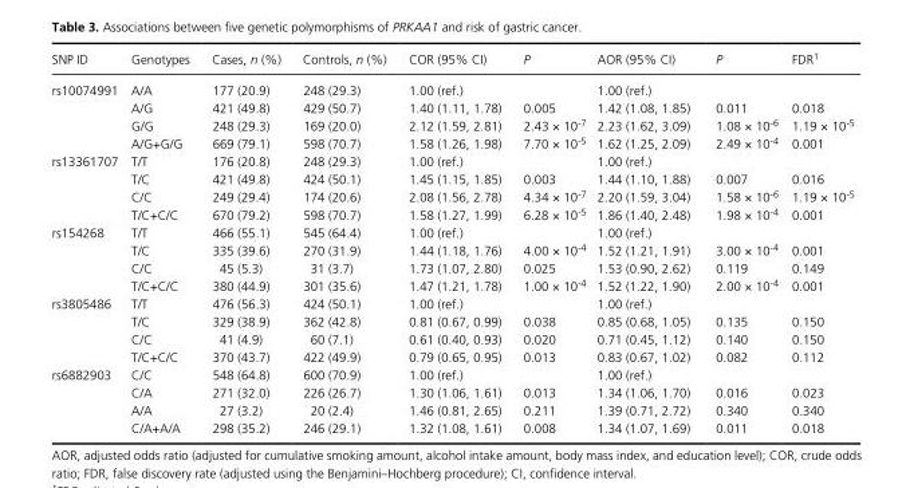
<table><thead><tr><td>SNP ID</td><td>Genotypes</td><td>Cases, n (%)</td><td>Controls, n (%)</td><td>COR (95% CI)</td><td>P</td><td>AOR (95% CI)</td><td>P</td><td>FDR1</td></tr></thead><tbody><tr><td rowspan="4">rs10074991</td><td>A/A</td><td>177 (20.9)</td><td>248 (29.3)</td><td>1.00 (ref.)</td><td></td><td>1.00 (ref.)</td><td></td><td></td></tr><tr><td>A/G</td><td>421 (49.8)</td><td>429 (50.7)</td><td>1.40 (1.11, 1.78)</td><td>0.005</td><td>1.42 (1.08, 1.85)</td><td>0.011</td><td>0.018</td></tr><tr><td>G/G</td><td>248 (29.3)</td><td>169 (20.0)</td><td>2.12 (1.59, 2.81)</td><td>2.43 × 10<sup>-7</sup></td><td>2.23 (1.62, 3.09)</td><td>1.08 × 10<sup>-6</sup></td><td>1.19 × 10<sup>-5</sup></td></tr><tr><td>A/G+G/G</td><td>669 (79.1)</td><td>598 (70.7)</td><td>1.58 (1.26, 1.98)</td><td>7.70 × 10<sup>-5</sup></td><td>1.62 (1.25, 2.09)</td><td>2.49 × 10<sup>-4</sup></td><td>0.001</td></tr><tr><td rowspan="4">rs13361707</td><td>T/T</td><td>176 (20.8)</td><td>248 (29.3)</td><td>1.00 (ref.)</td><td></td><td>1.00 (ref.)</td><td></td><td></td></tr><tr><td>T/C</td><td>421 (49.8)</td><td>424 (50.1)</td><td>1.45 (1.15, 1.85)</td><td>0.003</td><td>1.44 (1.10, 1.88)</td><td>0.007</td><td>0.016</td></tr><tr><td>C/C</td><td>249 (29.4)</td><td>174 (20.6)</td><td>2.08 (1.56, 2.78)</td><td>4.34 × 10<sup>-7</sup></td><td>2.20 (1.59, 3.04)</td><td>1.58 × 10<sup>-6</sup></td><td>1.19 × 10<sup>-5</sup></td></tr><tr><td>T/C+C/C</td><td>670 (79.2)</td><td>598 (70.7)</td><td>1.58 (1.27, 1.99)</td><td>6.28 × 10<sup>-5</sup></td><td>1.86 (1.40, 2.48)</td><td>1.98 × 10<sup>-4</sup></td><td>0.001</td></tr><tr><td rowspan="4">rs154268</td><td>T/T</td><td>466 (55.1)</td><td>545 (64.4)</td><td>1.00 (ref.)</td><td></td><td>1.00 (ref.)</td><td></td><td></td></tr><tr><td>T/C</td><td>335 (39.6)</td><td>270 (31.9)</td><td>1.44 (1.18, 1.76)</td><td>4.00 × 10<sup>-4</sup></td><td>1.52 (1.21, 1.91)</td><td>3.00 × 10<sup>-4</sup></td><td>0.001</td></tr><tr><td>C/C</td><td>45 (5.3)</td><td>31 (3.7)</td><td>1.73 (1.07, 2.80)</td><td>0.025</td><td>1.53 (0.90, 2.62)</td><td>0.119</td><td>0.149</td></tr><tr><td>T/C+C/C</td><td>380 (44.9)</td><td>301 (35.6)</td><td>1.47 (1.21, 1.78)</td><td>1.00 × 10<sup>-4</sup></td><td>1.52 (1.22, 1.90)</td><td>2.00 × 10<sup>-4</sup></td><td>0.001</td></tr><tr><td rowspan="4">rs3805486</td><td>T/T</td><td>476 (56.3)</td><td>424 (50.1)</td><td>1.00 (ref.)</td><td></td><td>1.00 (ref.)</td><td></td><td></td></tr><tr><td>T/C</td><td>329 (38.9)</td><td>362 (42.8)</td><td>0.81 (0.67, 0.99)</td><td>0.038</td><td>0.85 (0.68, 1.05)</td><td>0.135</td><td>0.150</td></tr><tr><td>C/C</td><td>41 (4.9)</td><td>60 (7.1)</td><td>0.61 (0.40, 0.93)</td><td>0.020</td><td>0.71 (0.45, 1.12)</td><td>0.140</td><td>0.150</td></tr><tr><td>T/C+C/C</td><td>370 (43.7)</td><td>422 (49.9)</td><td>0.79 (0.65, 0.95)</td><td>0.013</td><td>0.83 (0.67, 1.02)</td><td>0.082</td><td>0.112</td></tr><tr><td rowspan="4">rs6882903</td><td>C/C</td><td>548 (64.8)</td><td>600 (70.9)</td><td>1.00 (ref.)</td><td></td><td>1.00 (ref.)</td><td></td><td></td></tr><tr><td>C/A</td><td>271 (32.0)</td><td>226 (26.7)</td><td>1.30 (1.06, 1.61)</td><td>0.013</td><td>1.34 (1.06, 1.70)</td><td>0.016</td><td>0.023</td></tr><tr><td>A/A</td><td>27 (3.2)</td><td>20 (2.4)</td><td>1.46 (0.81, 2.65)</td><td>0.211</td><td>1.39 (0.71, 2.72)</td><td>0.340</td><td>0.340</td></tr><tr><td>C/A+A/A</td><td>298 (35.2)</td><td>246 (29.1)</td><td>1.32 (1.08, 1.61)</td><td>0.008</td><td>1.34 (1.07, 1.69)</td><td>0.011</td><td>0.018</td></tr></tbody></table>